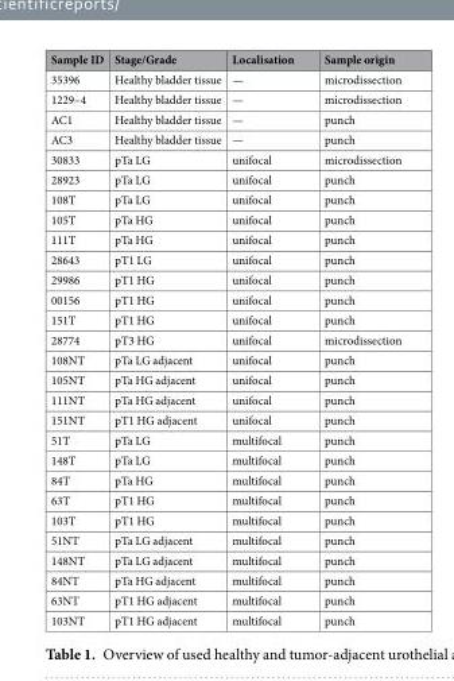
<table><thead><tr><td>Sample ID</td><td>Stage/Grade</td><td>Localisation</td><td>Sample origin</td></tr></thead><tbody><tr><td>35396</td><td>Healthy bladder tissue</td><td>—</td><td>microdissection</td></tr><tr><td>1229–4</td><td>Healthy bladder tissue</td><td>—</td><td>microdissection</td></tr><tr><td>AC1</td><td>Healthy bladder tissue</td><td>—</td><td>punch</td></tr><tr><td>AC3</td><td>Healthy bladder tissue</td><td>—</td><td>punch</td></tr><tr><td>30833</td><td>pTa LG</td><td>unifocal</td><td>microdissection</td></tr><tr><td>28923</td><td>pTa LG</td><td>unifocal</td><td>punch</td></tr><tr><td>108T</td><td>pTa LG</td><td>unifocal</td><td>punch</td></tr><tr><td>105T</td><td>pTa HG</td><td>unifocal</td><td>punch</td></tr><tr><td>111T</td><td>pTa HG</td><td>unifocal</td><td>punch</td></tr><tr><td>28643</td><td>pT1 LG</td><td>unifocal</td><td>punch</td></tr><tr><td>29986</td><td>pT1 HG</td><td>unifocal</td><td>punch</td></tr><tr><td>00156</td><td>pT1 HG</td><td>unifocal</td><td>punch</td></tr><tr><td>151T</td><td>pT1 HG</td><td>unifocal</td><td>punch</td></tr><tr><td>28774</td><td>pT3 HG</td><td>unifocal</td><td>microdissection</td></tr><tr><td>108NT</td><td>pTa LG adjacent</td><td>unifocal</td><td>punch</td></tr><tr><td>105NT</td><td>pTa HG adjacent</td><td>unifocal</td><td>punch</td></tr><tr><td>111NT</td><td>pTa HG adjacent</td><td>unifocal</td><td>punch</td></tr><tr><td>151NT</td><td>pT1 HG adjacent</td><td>unifocal</td><td>punch</td></tr><tr><td>51T</td><td>pTa LG</td><td>multifocal</td><td>punch</td></tr><tr><td>148T</td><td>pTa LG</td><td>multifocal</td><td>punch</td></tr><tr><td>84T</td><td>pTa HG</td><td>multifocal</td><td>punch</td></tr><tr><td>63T</td><td>pT1 HG</td><td>multifocal</td><td>punch</td></tr><tr><td>103T</td><td>pT1 HG</td><td>multifocal</td><td>punch</td></tr><tr><td>51NT</td><td>pTa LG adjacent</td><td>multifocal</td><td>punch</td></tr><tr><td>148NT</td><td>pTa LG adjacent</td><td>multifocal</td><td>punch</td></tr><tr><td>84NT</td><td>pTa HG adjacent</td><td>multifocal</td><td>punch</td></tr><tr><td>63NT</td><td>pT1 HG adjacent</td><td>multifocal</td><td>punch</td></tr><tr><td>103NT</td><td>pT1 HG adjacent</td><td>multifocal</td><td>punch</td></tr></tbody></table>